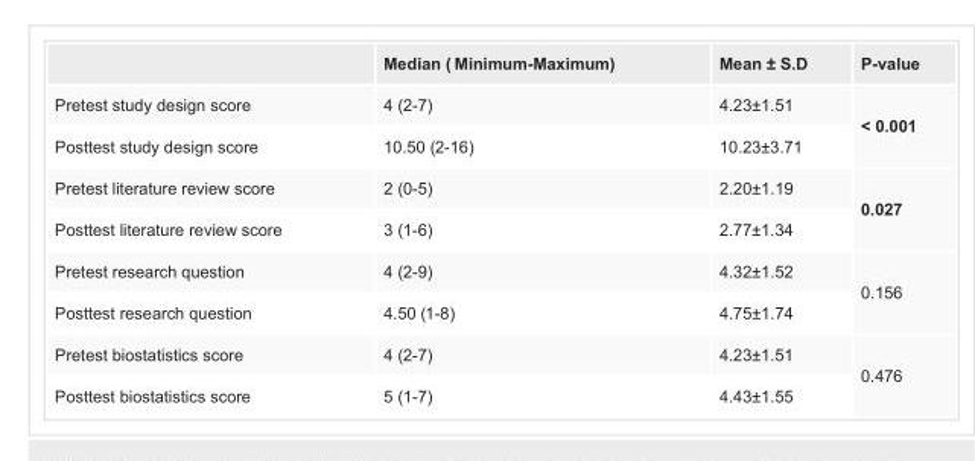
<table><thead><tr><td></td><td>Median ( Minimum-Maximum)</td><td>Mean ± S.D</td><td>P-value</td></tr></thead><tbody><tr><td>Pretest study design score</td><td>4 (2-7)</td><td>4.23±1.51</td><td rowspan="2">&lt; 0.001</td></tr><tr><td>Posttest study design score</td><td>10.50 (2-16)</td><td>10.23±3.71</td></tr><tr><td>Pretest literature review score</td><td>2 (0-5)</td><td>2.20±1.19</td><td rowspan="2">0.027</td></tr><tr><td>Posttest literature review score</td><td>3 (1-6)</td><td>2.77±1.34</td></tr><tr><td>Pretest research question</td><td>4 (2-9)</td><td>4.32±1.52</td><td rowspan="2">0.156</td></tr><tr><td>Posttest research question</td><td>4.50 (1-8)</td><td>4.75±1.74</td></tr><tr><td>Pretest biostatistics score</td><td>4 (2-7)</td><td>4.23±1.51</td><td rowspan="2">0.476</td></tr><tr><td>Posttest biostatistics score</td><td>5 (1-7)</td><td>4.43±1.55</td></tr></tbody></table>